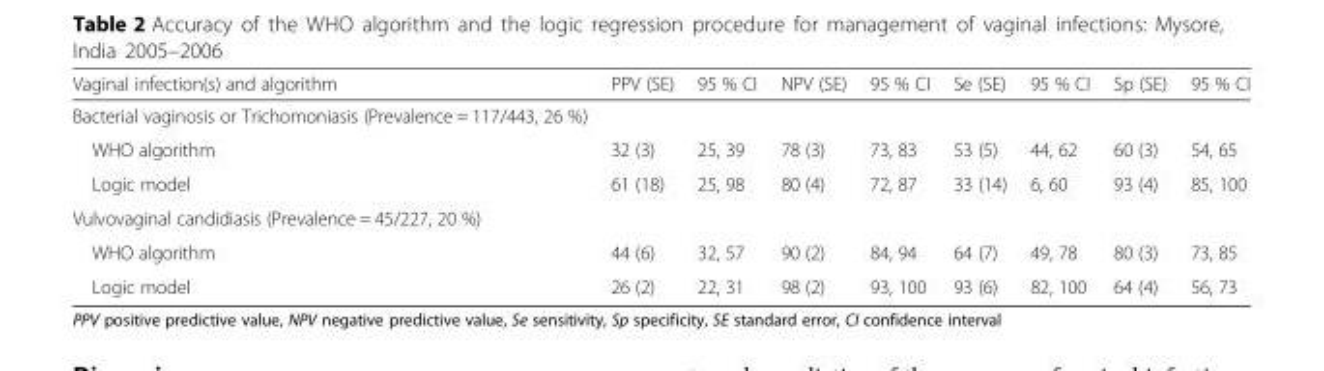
<table><thead><tr><td>Vaginal infection(s) and algorithm</td><td>PPV (SE)</td><td>95 % CI</td><td>NPV (SE)</td><td>95 % CI</td><td>Se (SE)</td><td>95 % CI</td><td>Sp (SE)</td><td>95 % CI</td></tr></thead><tbody><tr><td colspan="9">Bacterial vaginosis or Trichomoniasis (Prevalence = 117/443, 26 %)</td></tr><tr><td>WHO algorithm</td><td>32 (3)</td><td>25, 39</td><td>78 (3)</td><td>73, 83</td><td>53 (5)</td><td>44, 62</td><td>60 (3)</td><td>54, 65</td></tr><tr><td>Logic model</td><td>61 (18)</td><td>25, 98</td><td>80 (4)</td><td>72, 87</td><td>33 (14)</td><td>6, 60</td><td>93 (4)</td><td>85, 100</td></tr><tr><td colspan="9">Vulvovaginal candidiasis (Prevalence = 45/227, 20 %)</td></tr><tr><td>WHO algorithm</td><td>44 (6)</td><td>32, 57</td><td>90 (2)</td><td>84, 94</td><td>64 (7)</td><td>49, 78</td><td>80 (3)</td><td>73, 85</td></tr><tr><td>Logic model</td><td>26 (2)</td><td>22, 31</td><td>98 (2)</td><td>93, 100</td><td>93 (6)</td><td>82, 100</td><td>64 (4)</td><td>56, 73</td></tr></tbody></table>